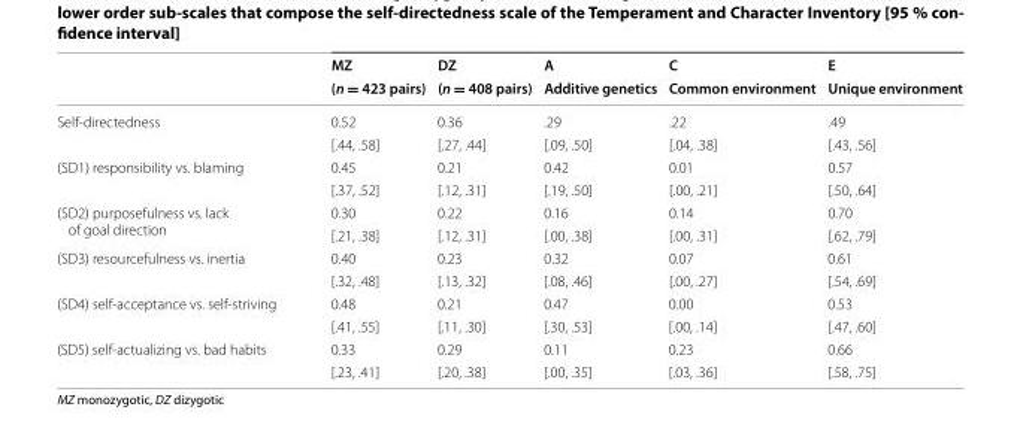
<table><thead><tr><td rowspan="2"></td><td rowspan="2">MZ (n = 423 pairs)</td><td rowspan="2">DZ (n = 408 pairs)</td><td rowspan="2">A Additive genetics</td><td rowspan="2">C Common environment</td><td rowspan="2">E Unique environment</td></tr><tr></tr></thead><tbody><tr><td rowspan="2">Self-directedness</td><td>0.52</td><td>0.36</td><td>.29</td><td>.22</td><td>.49</td></tr><tr><td>[.44, .58]</td><td>[.27, .44]</td><td>[.09, .50]</td><td>[.04, .38]</td><td>[.43, .56]</td></tr><tr><td rowspan="2">(SD1) responsibility vs. blaming</td><td>0.45</td><td>0.21</td><td>0.42</td><td>0.01</td><td>0.57</td></tr><tr><td>[.37, .52]</td><td>[.12, .31]</td><td>[.19, .50]</td><td>[.00, .21]</td><td>[.50, .64]</td></tr><tr><td rowspan="2">(SD2) purposefulness vs. lack of goal direction</td><td>0.30</td><td>0.22</td><td>0.16</td><td>0.14</td><td>0.70</td></tr><tr><td>[.21, .38]</td><td>[.12, .31]</td><td>[.00, .38]</td><td>[.00, .31]</td><td>[.62, .79]</td></tr><tr><td rowspan="2">(SD3) resourcefulness vs. inertia</td><td>0.40</td><td>0.23</td><td>0.32</td><td>0.07</td><td>0.61</td></tr><tr><td>[.32, .48]</td><td>[.13, .32]</td><td>[.08, .46]</td><td>[.00, .27]</td><td>[.54, .69]</td></tr><tr><td rowspan="2">(SD4) self-acceptance vs. self-striving</td><td>0.48</td><td>0.21</td><td>0.47</td><td>0.00</td><td>0.53</td></tr><tr><td>[.41, .55]</td><td>[.11, .30]</td><td>[.30, .53]</td><td>[.00, .14]</td><td>[.47, .60]</td></tr><tr><td rowspan="2">(SD5) self-actualizing vs. bad habits</td><td>0.33</td><td>0.29</td><td>0.11</td><td>0.23</td><td>0.66</td></tr><tr><td>[.23, .41]</td><td>[.20, .38]</td><td>[.00, .35]</td><td>[.03, .36]</td><td>[.58, .75]</td></tr></tbody></table>